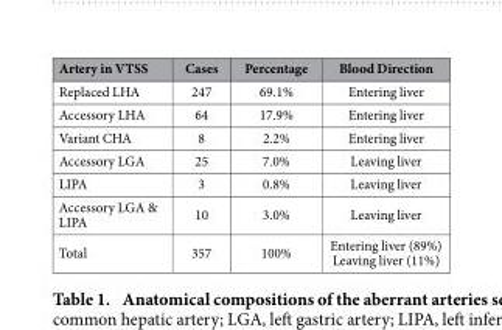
<table><thead><tr><td>Artery in VTSS</td><td>Cases</td><td>Percentage</td><td>Blood Direction</td></tr></thead><tbody><tr><td>Replaced LHA</td><td>247</td><td>69.1%</td><td>Entering liver</td></tr><tr><td>Accessory LHA</td><td>64</td><td>17.9%</td><td>Entering liver</td></tr><tr><td>Variant CHA</td><td>8</td><td>2.2%</td><td>Entering liver</td></tr><tr><td>Accessory LGA</td><td>25</td><td>7.0%</td><td>Leaving liver</td></tr><tr><td>LIPA</td><td>3</td><td>0.8%</td><td>Leaving liver</td></tr><tr><td>Accessory LGA &amp; LIPA</td><td>10</td><td>3.0%</td><td>Leaving liver</td></tr><tr><td>Total</td><td>357</td><td>100%</td><td>Entering liver (89%) Leaving liver (11%)</td></tr></tbody></table>